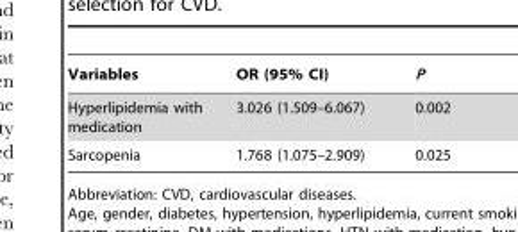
<table><thead><tr><td>Variables</td><td>OR (95% CI)</td><td>P</td></tr></thead><tbody><tr><td>Hyperlipidemia with medication</td><td>3.026 (1.509–6.067)</td><td>0.002</td></tr><tr><td>Sarcopenia</td><td>1.768 (1.075–2.909)</td><td>0.025</td></tr></tbody></table>